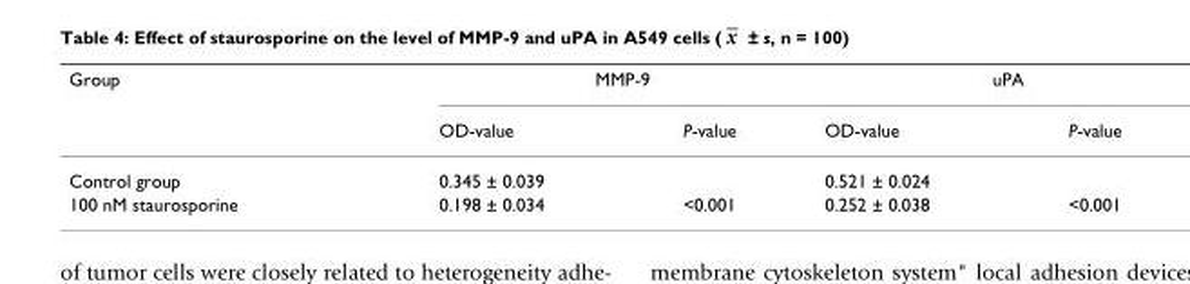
<table><thead><tr><td rowspan="2">Group</td><td colspan="2">MMP-9</td><td colspan="2">uPA</td></tr><tr><td>OD-value</td><td>P-value</td><td>OD-value</td><td>P-value</td></tr></thead><tbody><tr><td>Control group</td><td>0.345 ± 0.039</td><td></td><td>0.521 ± 0.024</td><td></td></tr><tr><td>100 nM staurosporine</td><td>0.198 ± 0.034</td><td>&lt;0.001</td><td>0.252 ± 0.038</td><td>&lt;0.001</td></tr></tbody></table>